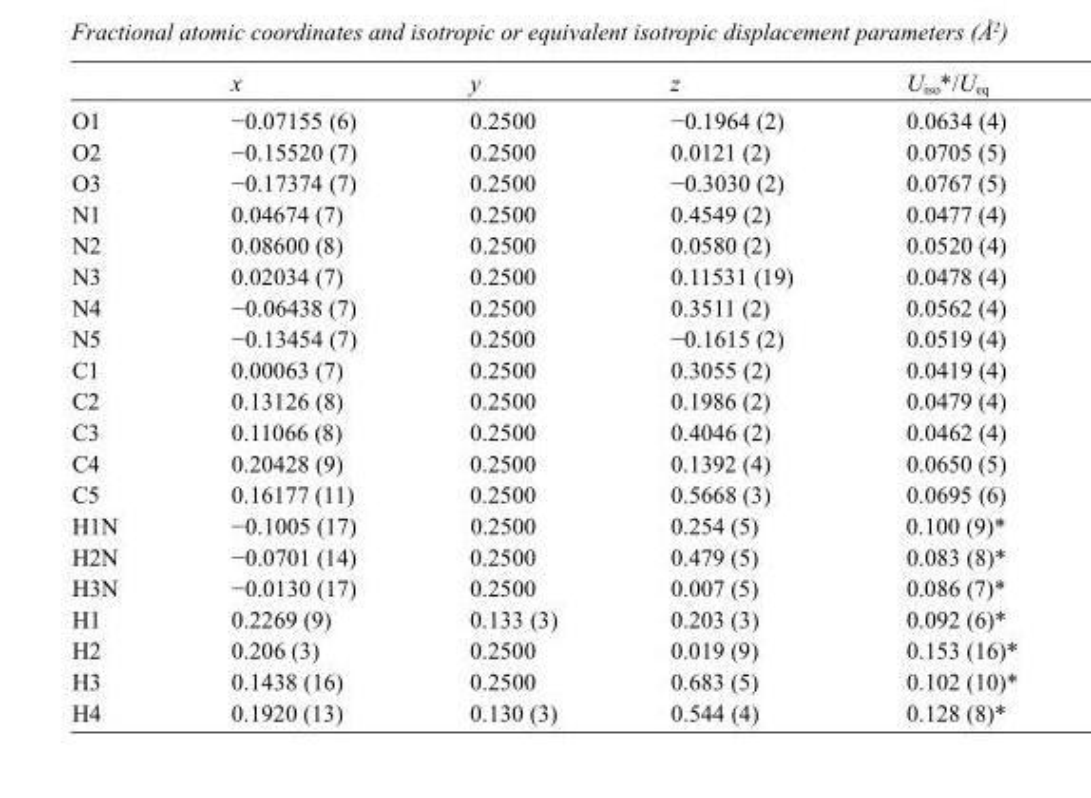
<table><thead><tr><td></td><td>x</td><td>y</td><td>z</td><td>U<sub>iso</sub>*/U<sub>eq</sub></td></tr></thead><tbody><tr><td>O1</td><td>−0.07155 (6)</td><td>0.2500</td><td>−0.1964 (2)</td><td>0.0634 (4)</td></tr><tr><td>O2</td><td>−0.15520 (7)</td><td>0.2500</td><td>0.0121 (2)</td><td>0.0705 (5)</td></tr><tr><td>O3</td><td>−0.17374 (7)</td><td>0.2500</td><td>−0.3030 (2)</td><td>0.0767 (5)</td></tr><tr><td>N1</td><td>0.04674 (7)</td><td>0.2500</td><td>0.4549 (2)</td><td>0.0477 (4)</td></tr><tr><td>N2</td><td>0.08600 (8)</td><td>0.2500</td><td>0.0580 (2)</td><td>0.0520 (4)</td></tr><tr><td>N3</td><td>0.02034 (7)</td><td>0.2500</td><td>0.11531 (19)</td><td>0.0478 (4)</td></tr><tr><td>N4</td><td>−0.06438 (7)</td><td>0.2500</td><td>0.3511 (2)</td><td>0.0562 (4)</td></tr><tr><td>N5</td><td>−0.13454 (7)</td><td>0.2500</td><td>−0.1615 (2)</td><td>0.0519 (4)</td></tr><tr><td>C1</td><td>0.00063 (7)</td><td>0.2500</td><td>0.3055 (2)</td><td>0.0419 (4)</td></tr><tr><td>C2</td><td>0.13126 (8)</td><td>0.2500</td><td>0.1986 (2)</td><td>0.0479 (4)</td></tr><tr><td>C3</td><td>0.11066 (8)</td><td>0.2500</td><td>0.4046 (2)</td><td>0.0462 (4)</td></tr><tr><td>C4</td><td>0.20428 (9)</td><td>0.2500</td><td>0.1392 (4)</td><td>0.0650 (5)</td></tr><tr><td>C5</td><td>0.16177 (11)</td><td>0.2500</td><td>0.5668 (3)</td><td>0.0695 (6)</td></tr><tr><td>H1N</td><td>−0.1005 (17)</td><td>0.2500</td><td>0.254 (5)</td><td>0.100 (9)*</td></tr><tr><td>H2N</td><td>−0.0701 (14)</td><td>0.2500</td><td>0.479 (5)</td><td>0.083 (8)*</td></tr><tr><td>H3N</td><td>−0.0130 (17)</td><td>0.2500</td><td>0.007 (5)</td><td>0.086 (7)*</td></tr><tr><td>H1</td><td>0.2269 (9)</td><td>0.133 (3)</td><td>0.203 (3)</td><td>0.092 (6)*</td></tr><tr><td>H2</td><td>0.206 (3)</td><td>0.2500</td><td>0.019 (9)</td><td>0.153 (16)*</td></tr><tr><td>H3</td><td>0.1438 (16)</td><td>0.2500</td><td>0.683 (5)</td><td>0.102 (10)*</td></tr><tr><td>H4</td><td>0.1920 (13)</td><td>0.130 (3)</td><td>0.544 (4)</td><td>0.128 (8)*</td></tr></tbody></table>